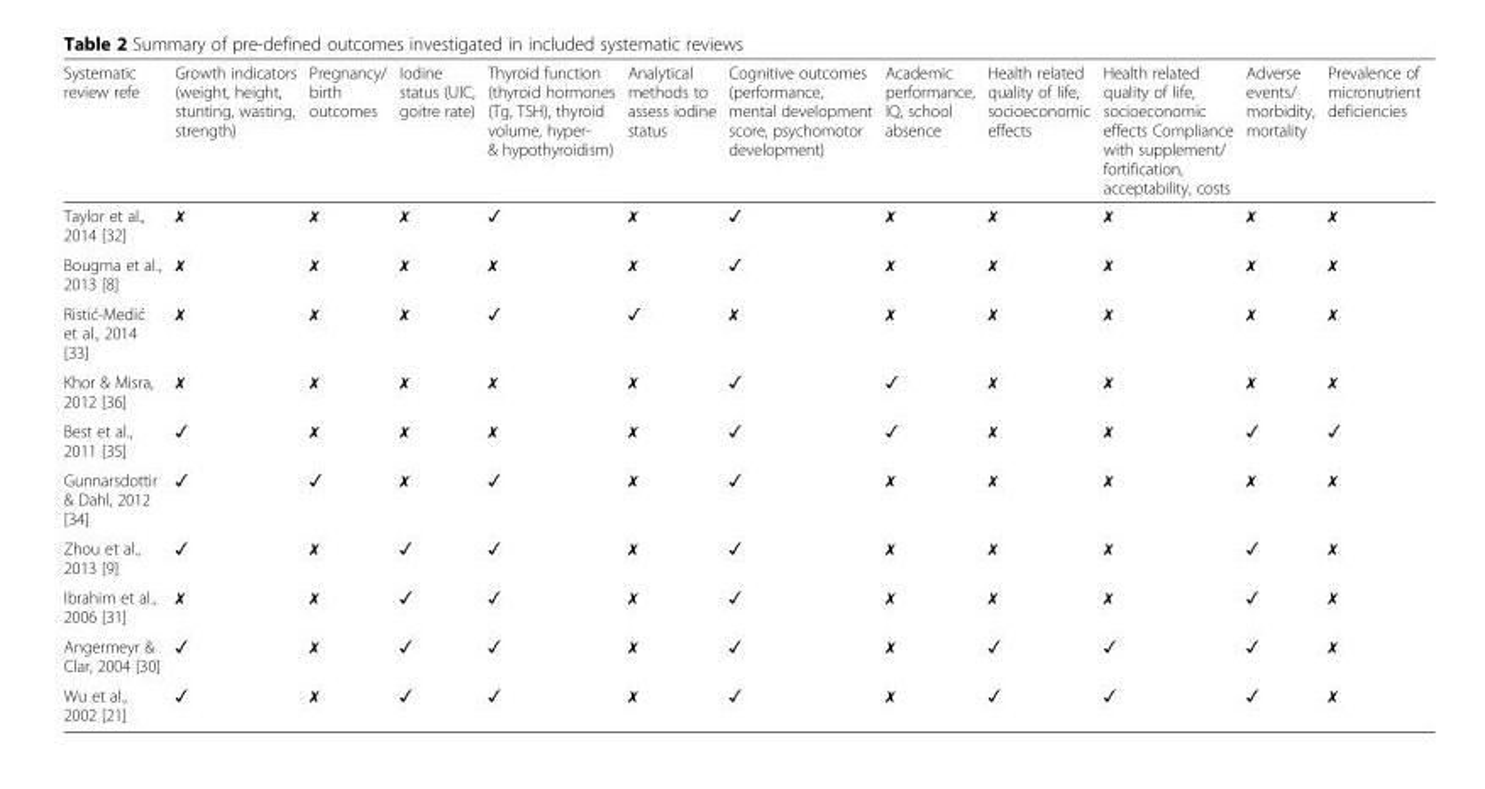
<table><thead><tr><td>Systematic review refe</td><td>Growth indicators (weight, height, stunting, wasting, strength)</td><td>Pregnancy/ birth outcomes</td><td>Iodine status (UIC, goitre rate)</td><td>Thyroid function (thyroid hormones (Tg, TSH), thyroid volume, hyper- &amp; hypothyroidism)</td><td>Analytical methods to assess iodine status</td><td>Cognitive outcomes (performance, mental development score, psychomotor development)</td><td>Academic performance, IQ, school absence</td><td>Health related quality of life, socioeconomic effects</td><td>Health related quality of life, socioeconomic effects Compliance with supplement/ fortification, acceptability, costs</td><td>Adverse events/ morbidity, mortality</td><td>Prevalence of micronutrient deficiencies</td></tr></thead><tbody><tr><td>Taylor et al., 2014 [32]</td><td>✗</td><td>✗</td><td>✗</td><td>✓</td><td>✗</td><td>✓</td><td>✗</td><td>✗</td><td>✗</td><td>✗</td><td>✗</td></tr><tr><td>Bougma et al., 2013 [8]</td><td>✗</td><td>✗</td><td>✗</td><td>✗</td><td>✗</td><td>✓</td><td>✗</td><td>✗</td><td>✗</td><td>✗</td><td>✗</td></tr><tr><td>Ristić-Medić et al., 2014 [33]</td><td>✗</td><td>✗</td><td>✗</td><td>✓</td><td>✓</td><td>✗</td><td>✗</td><td>✗</td><td>✗</td><td>✗</td><td>✗</td></tr><tr><td>Khor &amp; Misra, 2012 [36]</td><td>✗</td><td>✗</td><td>✗</td><td>✗</td><td>✗</td><td>✓</td><td>✓</td><td>✗</td><td>✗</td><td>✗</td><td>✗</td></tr><tr><td>Best et al., 2011 [35]</td><td>✓</td><td>✗</td><td>✗</td><td>✗</td><td>✗</td><td>✓</td><td>✓</td><td>✗</td><td>✗</td><td>✓</td><td>✓</td></tr><tr><td>Gunnarsdottir &amp; Dahl, 2012 [34]</td><td>✓</td><td>✓</td><td>✗</td><td>✓</td><td>✗</td><td>✓</td><td>✗</td><td>✗</td><td>✗</td><td>✗</td><td>✗</td></tr><tr><td>Zhou et al., 2013 [9]</td><td>✓</td><td>✗</td><td>✓</td><td>✓</td><td>✗</td><td>✓</td><td>✗</td><td>✗</td><td>✗</td><td>✓</td><td>✗</td></tr><tr><td>Ibrahim et al., 2006 [31]</td><td>✗</td><td>✗</td><td>✓</td><td>✓</td><td>✗</td><td>✓</td><td>✗</td><td>✗</td><td>✗</td><td>✓</td><td>✗</td></tr><tr><td>Angermeyr &amp; Clar, 2004 [30]</td><td>✓</td><td>✗</td><td>✓</td><td>✓</td><td>✗</td><td>✓</td><td>✗</td><td>✓</td><td>✓</td><td>✓</td><td>✗</td></tr><tr><td>Wu et al., 2002 [21]</td><td>✓</td><td>✗</td><td>✓</td><td>✓</td><td>✗</td><td>✓</td><td>✗</td><td>✓</td><td>✓</td><td>✓</td><td>✗</td></tr></tbody></table>